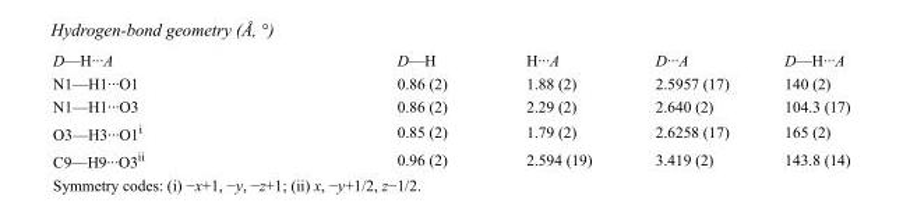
<table><tbody><tr><td>D—H···A</td><td>D—H</td><td>H···A</td><td>D···A</td><td>D—H···A</td></tr><tr><td>N1—H1···O1</td><td>0.86 (2)</td><td>1.88 (2)</td><td>2.5957 (17)</td><td>140 (2)</td></tr><tr><td>N1—H1···O3</td><td>0.86 (2)</td><td>2.29 (2)</td><td>2.640 (2)</td><td>104.3 (17)</td></tr><tr><td>O3—H3···O1<sup>i</sup></td><td>0.85 (2)</td><td>1.79 (2)</td><td>2.6258 (17)</td><td>165 (2)</td></tr><tr><td>C9—H9···O3<sup>ii</sup></td><td>0.96 (2)</td><td>2.594 (19)</td><td>3.419 (2)</td><td>143.8 (14)</td></tr></tbody></table>